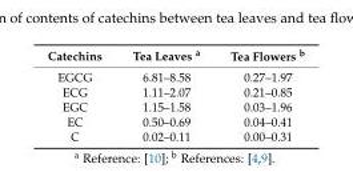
<table><thead><tr><td>Catechins</td><td>Tea Leaves <sup>a</sup></td><td>Tea Flowers <sup>b</sup></td></tr></thead><tbody><tr><td>EGCG</td><td>6.81–8.58</td><td>0.27–1.97</td></tr><tr><td>ECG</td><td>1.11–2.07</td><td>0.21–0.85</td></tr><tr><td>EGC</td><td>1.15–1.58</td><td>0.03–1.96</td></tr><tr><td>EC</td><td>0.50–0.69</td><td>0.04–0.41</td></tr><tr><td>C</td><td>0.02–0.11</td><td>0.00–0.31</td></tr></tbody></table>